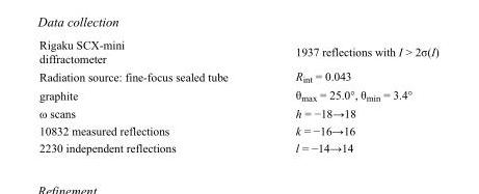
<table><tbody><tr><td>Rigaku SCX-mini diffractometer</td><td>1937 reflections with I &gt; 2σ(I)</td></tr><tr><td>Radiation source: fine-focus sealed tube</td><td>R<sub>int</sub> = 0.043</td></tr><tr><td>graphite</td><td>θ<sub>max</sub> = 25.0°, θ<sub>min</sub> = 3.4°</td></tr><tr><td>ω scans</td><td>h = −18→18</td></tr><tr><td>10832 measured reflections</td><td>k = −16→16</td></tr><tr><td>2230 independent reflections</td><td>l = −14→14</td></tr></tbody></table>